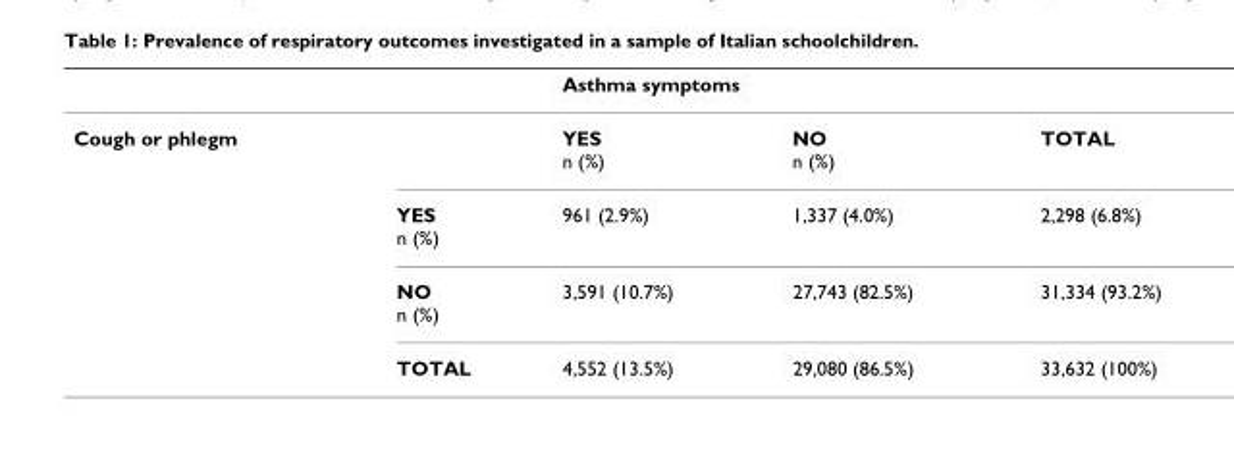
<table><thead><tr><td rowspan="2">Cough or phlegm</td><td rowspan="2"></td><td colspan="3">Asthma symptoms</td></tr><tr><td>YES n (%)</td><td>NO n (%)</td><td>TOTAL</td></tr></thead><tbody><tr><td></td><td>YES n (%)</td><td>961 (2.9%)</td><td>1,337 (4.0%)</td><td>2,298 (6.8%)</td></tr><tr><td></td><td>NO n (%)</td><td>3,591 (10.7%)</td><td>27,743 (82.5%)</td><td>31,334 (93.2%)</td></tr><tr><td></td><td>TOTAL</td><td>4,552 (13.5%)</td><td>29,080 (86.5%)</td><td>33,632 (100%)</td></tr></tbody></table>